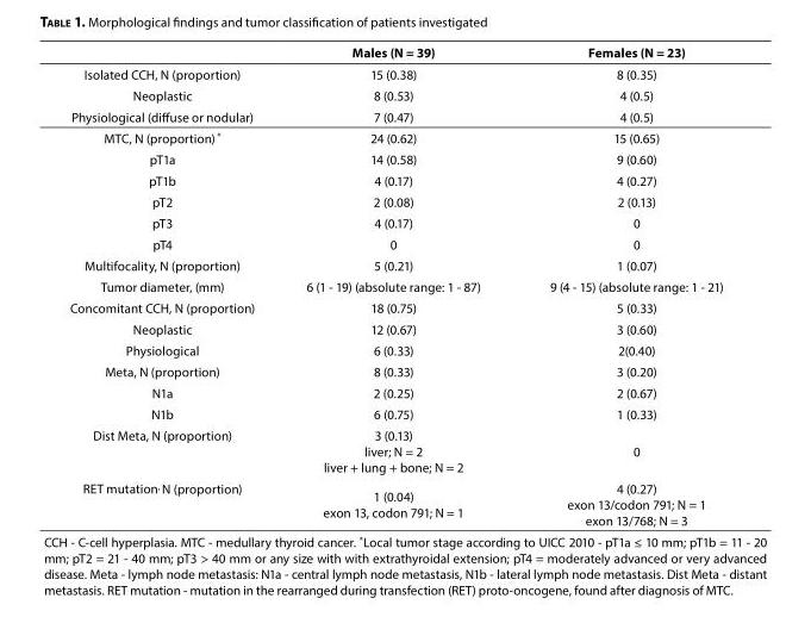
<table><thead><tr><td></td><td>Males (N = 39)</td><td>Females (N = 23)</td></tr></thead><tbody><tr><td>Isolated CCH, N (proportion)</td><td>15 (0.38)</td><td>8 (0.35)</td></tr><tr><td>Neoplastic</td><td>8 (0.53)</td><td>4 (0.5)</td></tr><tr><td>Physiological (diffuse or nodular)</td><td>7 (0.47)</td><td>4 (0.5)</td></tr><tr><td>MTC, N (proportion) *</td><td>24 (0.62)</td><td>15 (0.65)</td></tr><tr><td>pT1a</td><td>14 (0.58)</td><td>9 (0.60)</td></tr><tr><td>pT1b</td><td>4 (0.17)</td><td>4 (0.27)</td></tr><tr><td>pT2</td><td>2 (0.08)</td><td>2 (0.13)</td></tr><tr><td>pT3</td><td>4 (0.17)</td><td>0</td></tr><tr><td>pT4</td><td>0</td><td>0</td></tr><tr><td>Multifocality, N (proportion)</td><td>5 (0.21)</td><td>1 (0.07)</td></tr><tr><td>Tumor diameter, (mm)</td><td>6 (1 - 19) (absolute range: 1 - 87)</td><td>9 (4 - 15) (absolute range: 1 - 21)</td></tr><tr><td>Concomitant CCH, N (proportion)</td><td>18 (0.75)</td><td>5 (0.33)</td></tr><tr><td>Neoplastic</td><td>12 (0.67)</td><td>3 (0.60)</td></tr><tr><td>Physiological</td><td>6 (0.33)</td><td>2(0.40)</td></tr><tr><td>Meta, N (proportion)</td><td>8 (0.33)</td><td>3 (0.20)</td></tr><tr><td>N1a</td><td>2 (0.25)</td><td>2 (0.67)</td></tr><tr><td>N1b</td><td>6 (0.75)</td><td>1 (0.33)</td></tr><tr><td>Dist Meta, N (proportion)</td><td>3 (0.13) liver; N = 2 liver + lung + bone; N = 2</td><td>0</td></tr><tr><td>RET mutation<sup>,</sup> N (proportion)</td><td>1 (0.04) exon 13, codon 791; N = 1</td><td>4 (0.27) exon 13/codon 791; N = 1 exon 13/768; N = 3</td></tr><tr><td colspan="3">CCH - C-cell hyperplasia. MTC - medullary thyroid cancer. *Local tumor stage according to UICC 2010 - pT1a ≤ 10 mm; pT1b = 11 - 20 mm; pT2 = 21 - 40 mm; pT3 &gt; 40 mm or any size with with extrathyroidal extension; pT4 = moderately advanced or very advanced disease. Meta - lymph node metastasis: N1a - central lymph node metastasis, N1b - lateral lymph node metastasis. Dist Meta - distant metastasis. RET mutation - mutation in the rearranged during transfection (RET) proto-oncogene, found after diagnosis of MTC.</td></tr></tbody></table>